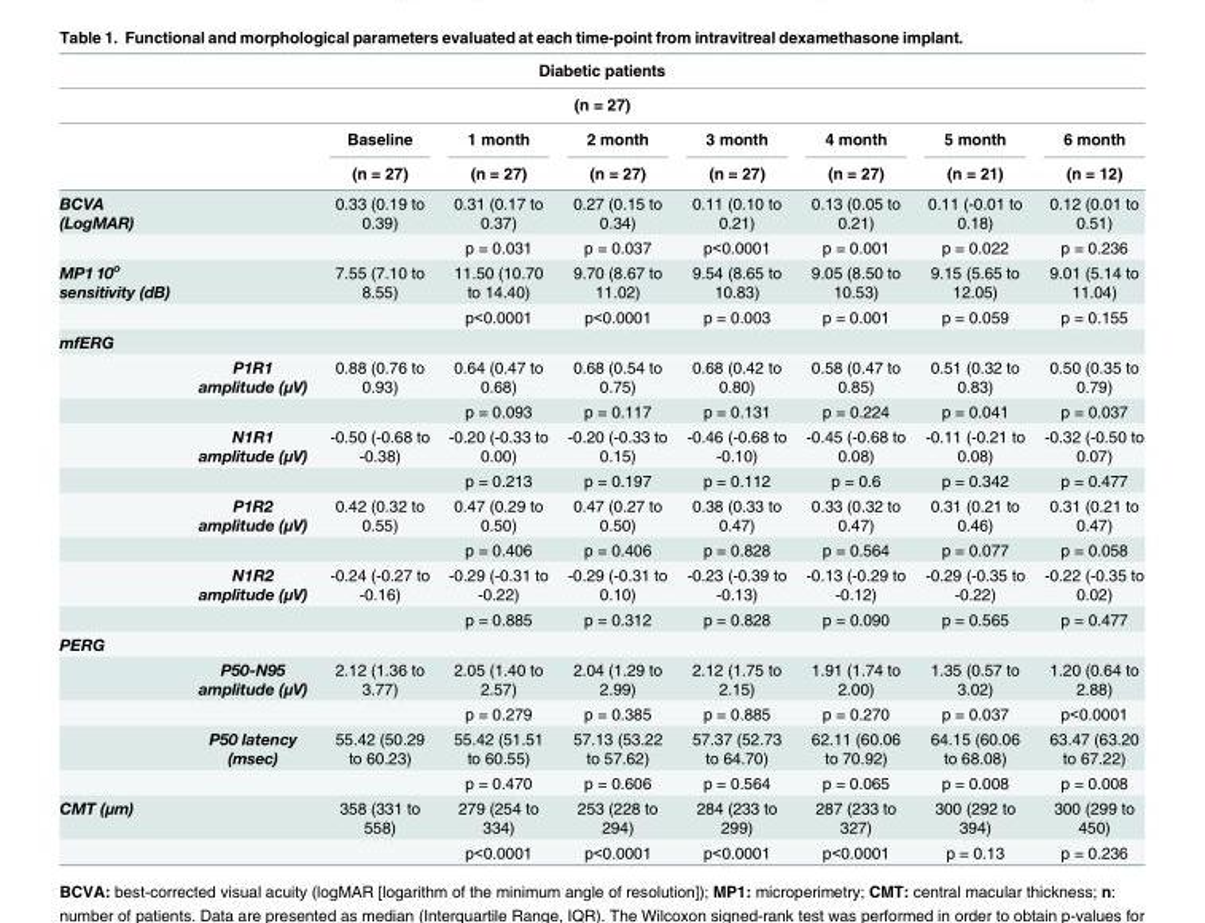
<table><thead><tr><td rowspan="2" colspan="9">Diabetic patients (n = 27)</td></tr><tr></tr><tr><td rowspan="2"></td><td rowspan="2"></td><td rowspan="2">Baseline (n = 27)</td><td rowspan="2">1 month (n = 27)</td><td rowspan="2">2 month (n = 27)</td><td rowspan="2">3 month (n = 27)</td><td rowspan="2">4 month (n = 27)</td><td rowspan="2">5 month (n = 21)</td><td rowspan="2">6 month (n = 12)</td></tr><tr></tr></thead><tbody><tr><td rowspan="2">BCVA (LogMAR)</td><td></td><td>0.33 (0.19 to 0.39)</td><td>0.31 (0.17 to 0.37)</td><td>0.27 (0.15 to 0.34)</td><td>0.11 (0.10 to 0.21)</td><td>0.13 (0.05 to 0.21)</td><td>0.11 (-0.01 to 0.18)</td><td>0.12 (0.01 to 0.51)</td></tr><tr><td></td><td></td><td>p = 0.031</td><td>p = 0.037</td><td>p&lt;0.0001</td><td>p = 0.001</td><td>p = 0.022</td><td>p = 0.236</td></tr><tr><td rowspan="2">MP1 10<sup>o</sup> sensitivity (dB)</td><td></td><td>7.55 (7.10 to 8.55)</td><td>11.50 (10.70 to 14.40)</td><td>9.70 (8.67 to 11.02)</td><td>9.54 (8.65 to 10.83)</td><td>9.05 (8.50 to 10.53)</td><td>9.15 (5.65 to 12.05)</td><td>9.01 (5.14 to 11.04)</td></tr><tr><td></td><td></td><td>p&lt;0.0001</td><td>p&lt;0.0001</td><td>p = 0.003</td><td>p = 0.001</td><td>p = 0.059</td><td>p = 0.155</td></tr><tr><td colspan="9">mfERG</td></tr><tr><td></td><td>P1R1 amplitude (μV)</td><td>0.88 (0.76 to 0.93)</td><td>0.64 (0.47 to 0.68)</td><td>0.68 (0.54 to 0.75)</td><td>0.68 (0.42 to 0.80)</td><td>0.58 (0.47 to 0.85)</td><td>0.51 (0.32 to 0.83)</td><td>0.50 (0.35 to 0.79)</td></tr><tr><td></td><td></td><td></td><td>p = 0.093</td><td>p = 0.117</td><td>p = 0.131</td><td>p = 0.224</td><td>p = 0.041</td><td>p = 0.037</td></tr><tr><td></td><td>N1R1 amplitude (μV)</td><td>-0.50 (-0.68 to -0.38)</td><td>-0.20 (-0.33 to 0.00)</td><td>-0.20 (-0.33 to 0.15)</td><td>-0.46 (-0.68 to -0.10)</td><td>-0.45 (-0.68 to 0.08)</td><td>-0.11 (-0.21 to 0.08)</td><td>-0.32 (-0.50 to 0.07)</td></tr><tr><td></td><td></td><td></td><td>p = 0.213</td><td>p = 0.197</td><td>p = 0.112</td><td>p = 0.6</td><td>p = 0.342</td><td>p = 0.477</td></tr><tr><td></td><td>P1R2 amplitude (μV)</td><td>0.42 (0.32 to 0.55)</td><td>0.47 (0.29 to 0.50)</td><td>0.47 (0.27 to 0.50)</td><td>0.38 (0.33 to 0.47)</td><td>0.33 (0.32 to 0.47)</td><td>0.31 (0.21 to 0.46)</td><td>0.31 (0.21 to 0.47)</td></tr><tr><td></td><td></td><td></td><td>p = 0.406</td><td>p = 0.406</td><td>p = 0.828</td><td>p = 0.564</td><td>p = 0.077</td><td>p = 0.058</td></tr><tr><td></td><td>N1R2 amplitude (μV)</td><td>-0.24 (-0.27 to -0.16)</td><td>-0.29 (-0.31 to -0.22)</td><td>-0.29 (-0.31 to 0.10)</td><td>-0.23 (-0.39 to -0.13)</td><td>-0.13 (-0.29 to -0.12)</td><td>-0.29 (-0.35 to -0.22)</td><td>-0.22 (-0.35 to 0.02)</td></tr><tr><td></td><td></td><td></td><td>p = 0.885</td><td>p = 0.312</td><td>p = 0.828</td><td>p = 0.090</td><td>p = 0.565</td><td>p = 0.477</td></tr><tr><td colspan="9">PERG</td></tr><tr><td></td><td>P50-N95 amplitude (μV)</td><td>2.12 (1.36 to 3.77)</td><td>2.05 (1.40 to 2.57)</td><td>2.04 (1.29 to 2.99)</td><td>2.12 (1.75 to 2.15)</td><td>1.91 (1.74 to 2.00)</td><td>1.35 (0.57 to 3.02)</td><td>1.20 (0.64 to 2.88)</td></tr><tr><td></td><td></td><td></td><td>p = 0.279</td><td>p = 0.385</td><td>p = 0.885</td><td>p = 0.270</td><td>p = 0.037</td><td>p&lt;0.0001</td></tr><tr><td></td><td>P50 latency (msec)</td><td>55.42 (50.29 to 60.23)</td><td>55.42 (51.51 to 60.55)</td><td>57.13 (53.22 to 57.62)</td><td>57.37 (52.73 to 64.70)</td><td>62.11 (60.06 to 70.92)</td><td>64.15 (60.06 to 68.08)</td><td>63.47 (63.20 to 67.22)</td></tr><tr><td></td><td></td><td></td><td>p = 0.470</td><td>p = 0.606</td><td>p = 0.564</td><td>p = 0.065</td><td>p = 0.008</td><td>p = 0.008</td></tr><tr><td rowspan="2">CMT (μm)</td><td></td><td>358 (331 to 558)</td><td>279 (254 to 334)</td><td>253 (228 to 294)</td><td>284 (233 to 299)</td><td>287 (233 to 327)</td><td>300 (292 to 394)</td><td>300 (299 to 450)</td></tr><tr><td></td><td></td><td>p&lt;0.0001</td><td>p&lt;0.0001</td><td>p&lt;0.0001</td><td>p&lt;0.0001</td><td>p = 0.13</td><td>p = 0.236</td></tr></tbody></table>